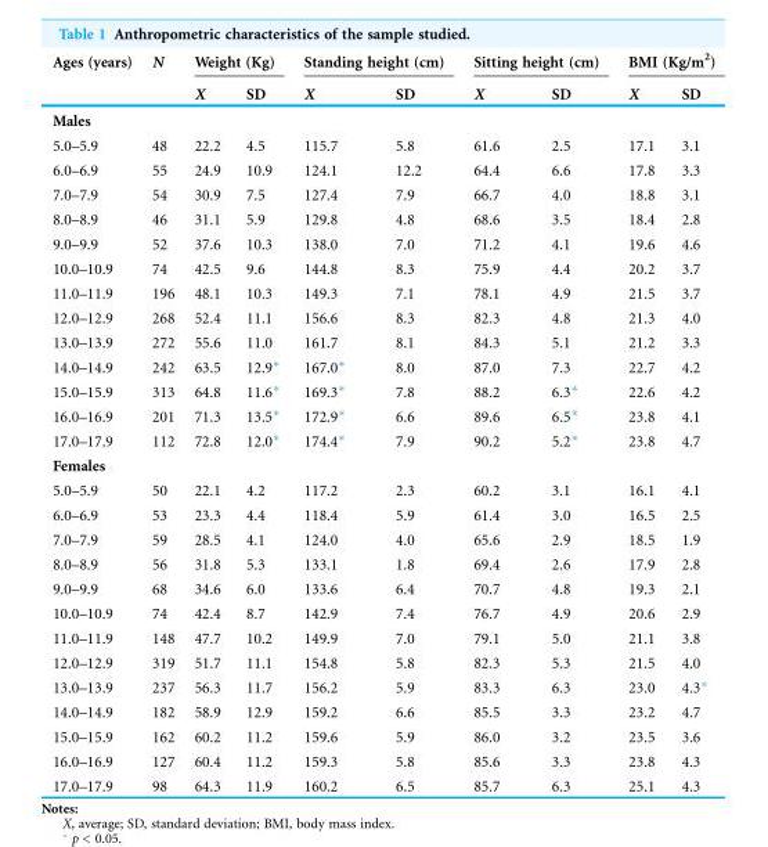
<table><thead><tr><td rowspan="2">Ages (years)</td><td rowspan="2">N</td><td colspan="2">Weight (Kg)</td><td colspan="2">Standing height (cm)</td><td colspan="2">Sitting height (cm)</td><td colspan="2">BMI (Kg/m<sup>2</sup>)</td></tr><tr><td>X</td><td>SD</td><td>X</td><td>SD</td><td>X</td><td>SD</td><td>X</td><td>SD</td></tr></thead><tbody><tr><td colspan="10">Males</td></tr><tr><td>5.0–5.9</td><td>48</td><td>22.2</td><td>4.5</td><td>115.7</td><td>5.8</td><td>61.6</td><td>2.5</td><td>17.1</td><td>3.1</td></tr><tr><td>6.0–6.9</td><td>55</td><td>24.9</td><td>10.9</td><td>124.1</td><td>12.2</td><td>64.4</td><td>6.6</td><td>17.8</td><td>3.3</td></tr><tr><td>7.0–7.9</td><td>54</td><td>30.9</td><td>7.5</td><td>127.4</td><td>7.9</td><td>66.7</td><td>4.0</td><td>18.8</td><td>3.1</td></tr><tr><td>8.0–8.9</td><td>46</td><td>31.1</td><td>5.9</td><td>129.8</td><td>4.8</td><td>68.6</td><td>3.5</td><td>18.4</td><td>2.8</td></tr><tr><td>9.0–9.9</td><td>52</td><td>37.6</td><td>10.3</td><td>138.0</td><td>7.0</td><td>71.2</td><td>4.1</td><td>19.6</td><td>4.6</td></tr><tr><td>10.0–10.9</td><td>74</td><td>42.5</td><td>9.6</td><td>144.8</td><td>8.3</td><td>75.9</td><td>4.4</td><td>20.2</td><td>3.7</td></tr><tr><td>11.0–11.9</td><td>196</td><td>48.1</td><td>10.3</td><td>149.3</td><td>7.1</td><td>78.1</td><td>4.9</td><td>21.5</td><td>3.7</td></tr><tr><td>12.0–12.9</td><td>268</td><td>52.4</td><td>11.1</td><td>156.6</td><td>8.3</td><td>82.3</td><td>4.8</td><td>21.3</td><td>4.0</td></tr><tr><td>13.0–13.9</td><td>272</td><td>55.6</td><td>11.0</td><td>161.7</td><td>8.1</td><td>84.3</td><td>5.1</td><td>21.2</td><td>3.3</td></tr><tr><td>14.0–14.9</td><td>242</td><td>63.5</td><td>12.9*</td><td>167.0*</td><td>8.0</td><td>87.0</td><td>7.3</td><td>22.7</td><td>4.2</td></tr><tr><td>15.0–15.9</td><td>313</td><td>64.8</td><td>11.6*</td><td>169.3*</td><td>7.8</td><td>88.2</td><td>6.3*</td><td>22.6</td><td>4.2</td></tr><tr><td>16.0–16.9</td><td>201</td><td>71.3</td><td>13.5*</td><td>172.9*</td><td>6.6</td><td>89.6</td><td>6.5*</td><td>23.8</td><td>4.1</td></tr><tr><td>17.0–17.9</td><td>112</td><td>72.8</td><td>12.0*</td><td>174.4*</td><td>7.9</td><td>90.2</td><td>5.2*</td><td>23.8</td><td>4.7</td></tr><tr><td colspan="10">Females</td></tr><tr><td>5.0–5.9</td><td>50</td><td>22.1</td><td>4.2</td><td>117.2</td><td>2.3</td><td>60.2</td><td>3.1</td><td>16.1</td><td>4.1</td></tr><tr><td>6.0–6.9</td><td>53</td><td>23.3</td><td>4.4</td><td>118.4</td><td>5.9</td><td>61.4</td><td>3.0</td><td>16.5</td><td>2.5</td></tr><tr><td>7.0–7.9</td><td>59</td><td>28.5</td><td>4.1</td><td>124.0</td><td>4.0</td><td>65.6</td><td>2.9</td><td>18.5</td><td>1.9</td></tr><tr><td>8.0–8.9</td><td>56</td><td>31.8</td><td>5.3</td><td>133.1</td><td>1.8</td><td>69.4</td><td>2.6</td><td>17.9</td><td>2.8</td></tr><tr><td>9.0–9.9</td><td>68</td><td>34.6</td><td>6.0</td><td>133.6</td><td>6.4</td><td>70.7</td><td>4.8</td><td>19.3</td><td>2.1</td></tr><tr><td>10.0–10.9</td><td>74</td><td>42.4</td><td>8.7</td><td>142.9</td><td>7.4</td><td>76.7</td><td>4.9</td><td>20.6</td><td>2.9</td></tr><tr><td>11.0–11.9</td><td>148</td><td>47.7</td><td>10.2</td><td>149.9</td><td>7.0</td><td>79.1</td><td>5.0</td><td>21.1</td><td>3.8</td></tr><tr><td>12.0–12.9</td><td>319</td><td>51.7</td><td>11.1</td><td>154.8</td><td>5.8</td><td>82.3</td><td>5.3</td><td>21.5</td><td>4.0</td></tr><tr><td>13.0–13.9</td><td>237</td><td>56.3</td><td>11.7</td><td>156.2</td><td>5.9</td><td>83.3</td><td>6.3</td><td>23.0</td><td>4.3*</td></tr><tr><td>14.0–14.9</td><td>182</td><td>58.9</td><td>12.9</td><td>159.2</td><td>6.6</td><td>85.5</td><td>3.3</td><td>23.2</td><td>4.7</td></tr><tr><td>15.0–15.9</td><td>162</td><td>60.2</td><td>11.2</td><td>159.6</td><td>5.9</td><td>86.0</td><td>3.2</td><td>23.5</td><td>3.6</td></tr><tr><td>16.0–16.9</td><td>127</td><td>60.4</td><td>11.2</td><td>159.3</td><td>5.8</td><td>85.6</td><td>3.3</td><td>23.8</td><td>4.3</td></tr><tr><td>17.0–17.9</td><td>98</td><td>64.3</td><td>11.9</td><td>160.2</td><td>6.5</td><td>85.7</td><td>6.3</td><td>25.1</td><td>4.3</td></tr></tbody></table>